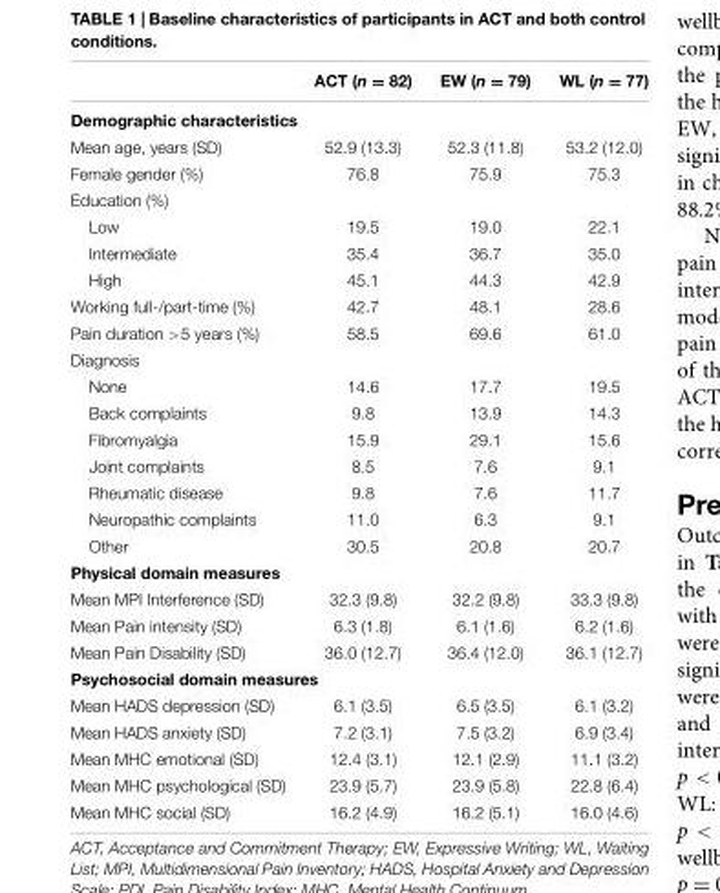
<table><thead><tr><td></td><td>ACT (n = 82)</td><td>EW (n = 79)</td><td>WL (n = 77)</td></tr></thead><tbody><tr><td colspan="4">Demographic characteristics</td></tr><tr><td>Mean age, years (SD)</td><td>52.9 (13.3)</td><td>52.3 (11.8)</td><td>53.2 (12.0)</td></tr><tr><td>Female gender (%)</td><td>76.8</td><td>75.9</td><td>75.3</td></tr><tr><td colspan="4">Education (%)</td></tr><tr><td>Low</td><td>19.5</td><td>19.0</td><td>22.1</td></tr><tr><td>Intermediate</td><td>35.4</td><td>36.7</td><td>35.0</td></tr><tr><td>High</td><td>45.1</td><td>44.3</td><td>42.9</td></tr><tr><td>Working full-/part-time (%)</td><td>42.7</td><td>48.1</td><td>28.6</td></tr><tr><td>Pain duration &gt;5 years (%)</td><td>58.5</td><td>69.6</td><td>61.0</td></tr><tr><td colspan="4">Diagnosis</td></tr><tr><td>None</td><td>14.6</td><td>17.7</td><td>19.5</td></tr><tr><td>Back complaints</td><td>9.8</td><td>13.9</td><td>14.3</td></tr><tr><td>Fibromyalgia</td><td>15.9</td><td>29.1</td><td>15.6</td></tr><tr><td>Joint complaints</td><td>8.5</td><td>7.6</td><td>9.1</td></tr><tr><td>Rheumatic disease</td><td>9.8</td><td>7.6</td><td>11.7</td></tr><tr><td>Neuropathic complaints</td><td>11.0</td><td>6.3</td><td>9.1</td></tr><tr><td>Other</td><td>30.5</td><td>20.8</td><td>20.7</td></tr><tr><td colspan="4">Physical domain measures</td></tr><tr><td>Mean MPI Interference (SD)</td><td>32.3 (9.8)</td><td>32.2 (9.8)</td><td>33.3 (9.8)</td></tr><tr><td>Mean Pain intensity (SD)</td><td>6.3 (1.8)</td><td>6.1 (1.6)</td><td>6.2 (1.6)</td></tr><tr><td>Mean Pain Disability (SD)</td><td>36.0 (12.7)</td><td>36.4 (12.0)</td><td>36.1 (12.7)</td></tr><tr><td colspan="4">Psychosocial domain measures</td></tr><tr><td>Mean HADS depression (SD)</td><td>6.1 (3.5)</td><td>6.5 (3.5)</td><td>6.1 (3.2)</td></tr><tr><td>Mean HADS anxiety (SD)</td><td>7.2 (3.1)</td><td>7.5 (3.2)</td><td>6.9 (3.4)</td></tr><tr><td>Mean MHC emotional (SD)</td><td>12.4 (3.1)</td><td>12.1 (2.9)</td><td>11.1 (3.2)</td></tr><tr><td>Mean MHC psychological (SD)</td><td>23.9 (5.7)</td><td>23.9 (5.8)</td><td>22.8 (6.4)</td></tr><tr><td>Mean MHC social (SD)</td><td>16.2 (4.9)</td><td>16.2 (5.1)</td><td>16.0 (4.6)</td></tr></tbody></table>